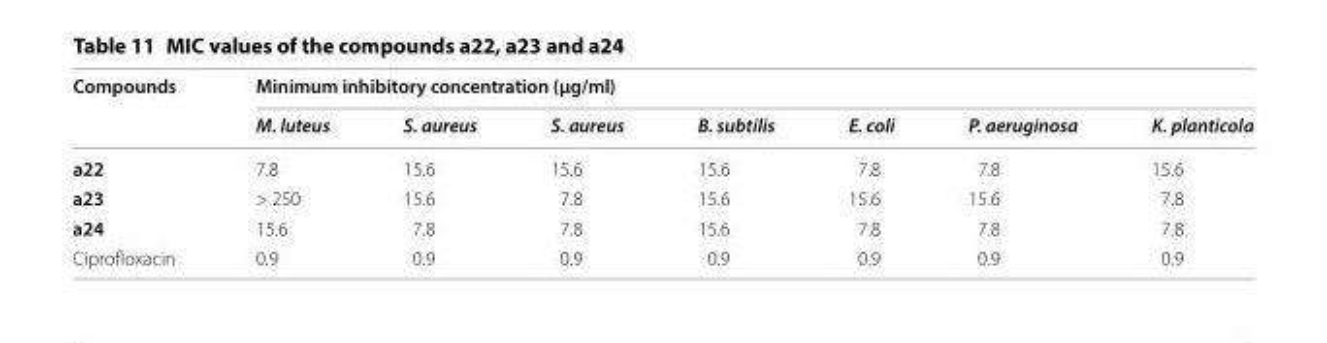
<table><thead><tr><td rowspan="2">Compounds</td><td colspan="7">Minimum inhibitory concentration (µg/ml)</td></tr><tr><td>M. luteus</td><td>S. aureus</td><td>S. aureus</td><td>B. subtilis</td><td>E. coli</td><td>P. aeruginosa</td><td>K. planticola</td></tr></thead><tbody><tr><td>a22</td><td>7.8</td><td>15.6</td><td>15.6</td><td>15.6</td><td>7.8</td><td>7.8</td><td>15.6</td></tr><tr><td>a23</td><td>&gt; 250</td><td>15.6</td><td>7.8</td><td>15.6</td><td>15.6</td><td>15.6</td><td>7.8</td></tr><tr><td>a24</td><td>15.6</td><td>7.8</td><td>7.8</td><td>15.6</td><td>7.8</td><td>7.8</td><td>7.8</td></tr><tr><td>Ciprofloxacin</td><td>0.9</td><td>0.9</td><td>0.9</td><td>0.9</td><td>0.9</td><td>0.9</td><td>0.9</td></tr></tbody></table>